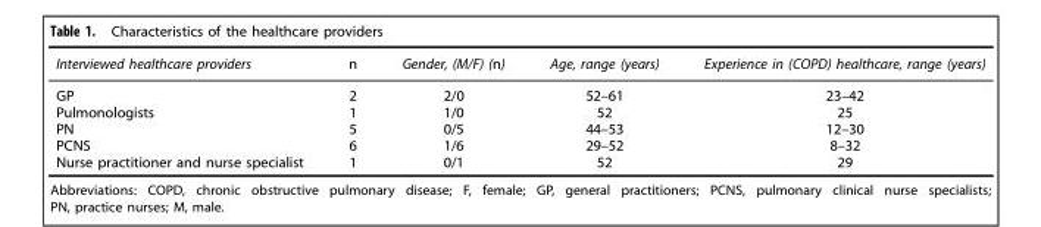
<table><thead><tr><td>Interviewed healthcare providers</td><td>n</td><td>Gender, (M/F) (n)</td><td>Age, range (years)</td><td>Experience in (COPD) healthcare, range (years)</td></tr></thead><tbody><tr><td>GP</td><td>2</td><td>2/0</td><td>52–61</td><td>23–42</td></tr><tr><td>Pulmonologists</td><td>1</td><td>1/0</td><td>52</td><td>25</td></tr><tr><td>PN</td><td>5</td><td>0/5</td><td>44–53</td><td>12–30</td></tr><tr><td>PCNS</td><td>6</td><td>1/6</td><td>29–52</td><td>8–32</td></tr><tr><td>Nurse practitioner and nurse specialist</td><td>1</td><td>0/1</td><td>52</td><td>29</td></tr></tbody></table>